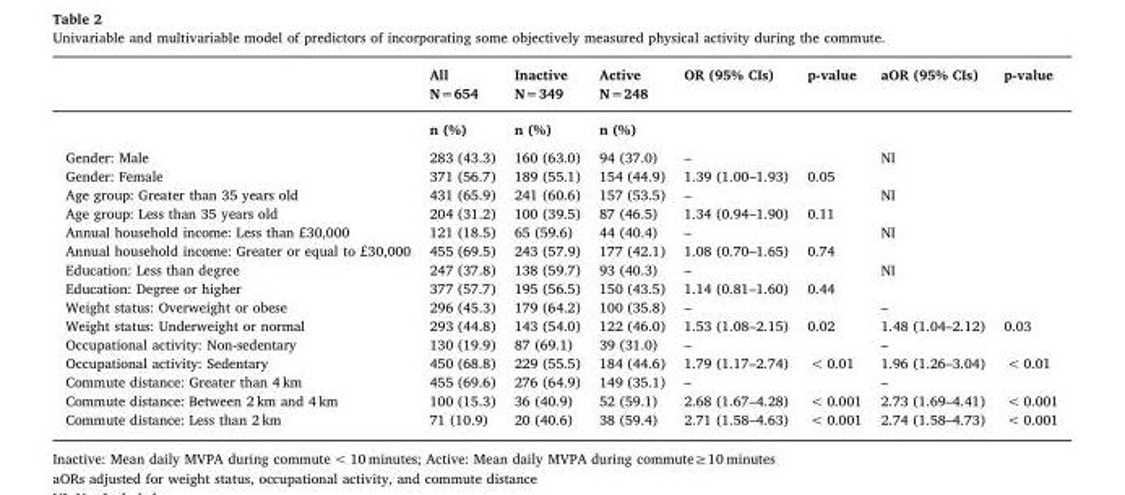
<table><thead><tr><td rowspan="2"></td><td rowspan="2">All N=654</td><td rowspan="2">Inactive N=349</td><td rowspan="2">Active N=248</td><td rowspan="2">OR (95% CIs)</td><td rowspan="2">p-value</td><td rowspan="2">aOR (95% CIs)</td><td rowspan="2">p-value</td></tr><tr></tr></thead><tbody><tr><td></td><td>n (%)</td><td>n (%)</td><td>n (%)</td><td></td><td></td><td></td><td></td></tr><tr><td>Gender: Male</td><td>283 (43.3)</td><td>160 (63.0)</td><td>94 (37.0)</td><td>–</td><td></td><td>NI</td><td></td></tr><tr><td>Gender: Female</td><td>371 (56.7)</td><td>189 (55.1)</td><td>154 (44.9)</td><td>1.39 (1.00–1.93)</td><td>0.05</td><td></td><td></td></tr><tr><td>Age group: Greater than 35 years old</td><td>431 (65.9)</td><td>241 (60.6)</td><td>157 (53.5)</td><td>–</td><td></td><td>NI</td><td></td></tr><tr><td>Age group: Less than 35 years old</td><td>204 (31.2)</td><td>100 (39.5)</td><td>87 (46.5)</td><td>1.34 (0.94–1.90)</td><td>0.11</td><td></td><td></td></tr><tr><td>Annual household income: Less than £30,000</td><td>121 (18.5)</td><td>65 (59.6)</td><td>44 (40.4)</td><td>–</td><td></td><td>NI</td><td></td></tr><tr><td>Annual household income: Greater or equal to £30,000</td><td>455 (69.5)</td><td>243 (57.9)</td><td>177 (42.1)</td><td>1.08 (0.70–1.65)</td><td>0.74</td><td></td><td></td></tr><tr><td>Education: Less than degree</td><td>247 (37.8)</td><td>138 (59.7)</td><td>93 (40.3)</td><td>–</td><td></td><td>NI</td><td></td></tr><tr><td>Education: Degree or higher</td><td>377 (57.7)</td><td>195 (56.5)</td><td>150 (43.5)</td><td>1.14 (0.81–1.60)</td><td>0.44</td><td></td><td></td></tr><tr><td>Weight status: Overweight or obese</td><td>296 (45.3)</td><td>179 (64.2)</td><td>100 (35.8)</td><td>–</td><td></td><td>–</td><td></td></tr><tr><td>Weight status: Underweight or normal</td><td>293 (44.8)</td><td>143 (54.0)</td><td>122 (46.0)</td><td>1.53 (1.08–2.15)</td><td>0.02</td><td>1.48 (1.04–2.12)</td><td>0.03</td></tr><tr><td>Occupational activity: Non-sedentary</td><td>130 (19.9)</td><td>87 (69.1)</td><td>39 (31.0)</td><td>–</td><td></td><td>–</td><td></td></tr><tr><td>Occupational activity: Sedentary</td><td>450 (68.8)</td><td>229 (55.5)</td><td>184 (44.6)</td><td>1.79 (1.17–2.74)</td><td>&lt; 0.01</td><td>1.96 (1.26–3.04)</td><td>&lt; 0.01</td></tr><tr><td>Commute distance: Greater than 4 km</td><td>455 (69.6)</td><td>276 (64.9)</td><td>149 (35.1)</td><td>–</td><td></td><td>–</td><td></td></tr><tr><td>Commute distance: Between 2 km and 4 km</td><td>100 (15.3)</td><td>36 (40.9)</td><td>52 (59.1)</td><td>2.68 (1.67–4.28)</td><td>&lt; 0.001</td><td>2.73 (1.69–4.41)</td><td>&lt; 0.001</td></tr><tr><td>Commute distance: Less than 2 km</td><td>71 (10.9)</td><td>20 (40.6)</td><td>38 (59.4)</td><td>2.71 (1.58–4.63)</td><td>&lt; 0.001</td><td>2.74 (1.58–4.73)</td><td>&lt; 0.001</td></tr></tbody></table>